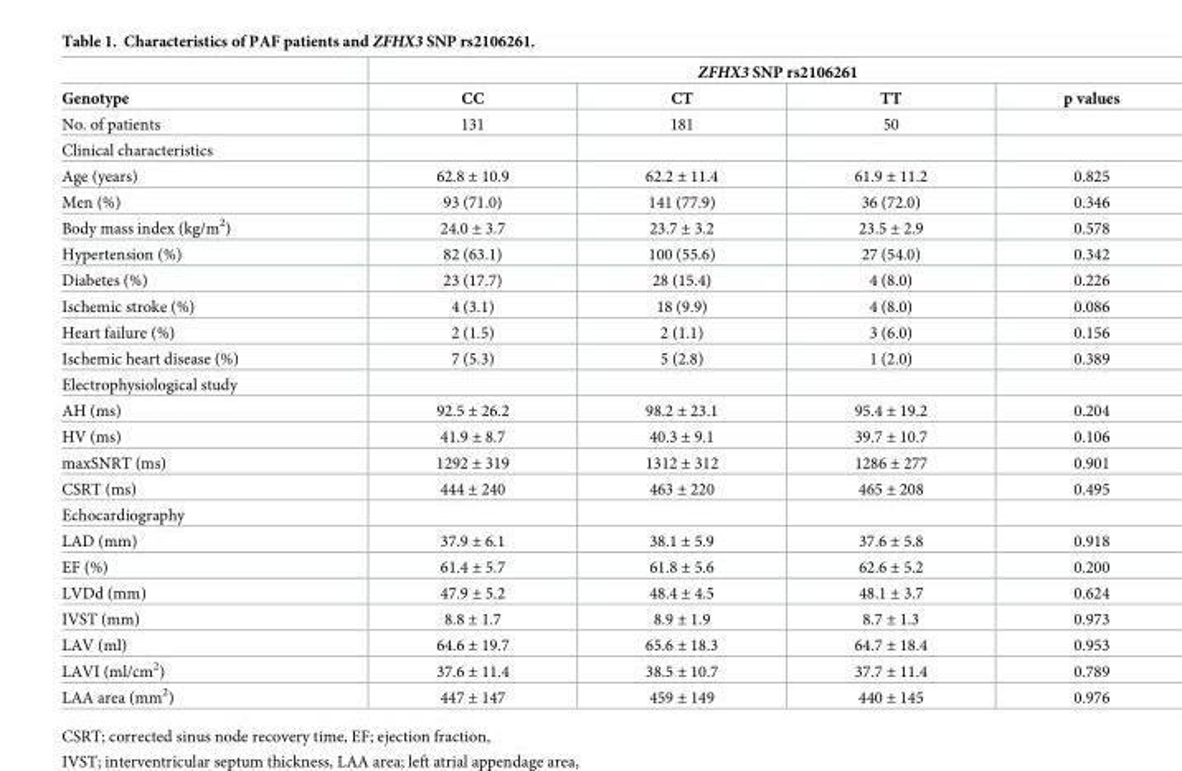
<table><thead><tr><td rowspan="2">Genotype</td><td colspan="4">ZFHX3 SNP rs2106261</td></tr><tr><td>CC</td><td>CT</td><td>TT</td><td>p values</td></tr></thead><tbody><tr><td>No. of patients</td><td>131</td><td>181</td><td>50</td><td></td></tr><tr><td colspan="5">Clinical characteristics</td></tr><tr><td>Age (years)</td><td>62.8 ± 10.9</td><td>62.2 ± 11.4</td><td>61.9 ± 11.2</td><td>0.825</td></tr><tr><td>Men (%)</td><td>93 (71.0)</td><td>141 (77.9)</td><td>36 (72.0)</td><td>0.346</td></tr><tr><td>Body mass index (kg/m<sup>2</sup>)</td><td>24.0 ± 3.7</td><td>23.7 ± 3.2</td><td>23.5 ± 2.9</td><td>0.578</td></tr><tr><td>Hypertension (%)</td><td>82 (63.1)</td><td>100 (55.6)</td><td>27 (54.0)</td><td>0.342</td></tr><tr><td>Diabetes (%)</td><td>23 (17.7)</td><td>28 (15.4)</td><td>4 (8.0)</td><td>0.226</td></tr><tr><td>Ischemic stroke (%)</td><td>4 (3.1)</td><td>18 (9.9)</td><td>4 (8.0)</td><td>0.086</td></tr><tr><td>Heart failure (%)</td><td>2 (1.5)</td><td>2 (1.1)</td><td>3 (6.0)</td><td>0.156</td></tr><tr><td>Ischemic heart disease (%)</td><td>7 (5.3)</td><td>5 (2.8)</td><td>1 (2.0)</td><td>0.389</td></tr><tr><td colspan="5">Electrophysiological study</td></tr><tr><td>AH (ms)</td><td>92.5 ± 26.2</td><td>98.2 ± 23.1</td><td>95.4 ± 19.2</td><td>0.204</td></tr><tr><td>HV (ms)</td><td>41.9 ± 8.7</td><td>40.3 ± 9.1</td><td>39.7 ± 10.7</td><td>0.106</td></tr><tr><td>maxSNRT (ms)</td><td>1292 ± 319</td><td>1312 ± 312</td><td>1286 ± 277</td><td>0.901</td></tr><tr><td>CSRT (ms)</td><td>444 ± 240</td><td>463 ± 220</td><td>465 ± 208</td><td>0.495</td></tr><tr><td colspan="5">Echocardiography</td></tr><tr><td>LAD (mm)</td><td>37.9 ± 6.1</td><td>38.1 ± 5.9</td><td>37.6 ± 5.8</td><td>0.918</td></tr><tr><td>EF (%)</td><td>61.4 ± 5.7</td><td>61.8 ± 5.6</td><td>62.6 ± 5.2</td><td>0.200</td></tr><tr><td>LVDd (mm)</td><td>47.9 ± 5.2</td><td>48.4 ± 4.5</td><td>48.1 ± 3.7</td><td>0.624</td></tr><tr><td>IVST (mm)</td><td>8.8 ± 1.7</td><td>8.9 ± 1.9</td><td>8.7 ± 1.3</td><td>0.973</td></tr><tr><td>LAV (ml)</td><td>64.6 ± 19.7</td><td>65.6 ± 18.3</td><td>64.7 ± 18.4</td><td>0.953</td></tr><tr><td>LAVI (ml/cm<sup>2</sup>)</td><td>37.6 ± 11.4</td><td>38.5 ± 10.7</td><td>37.7 ± 11.4</td><td>0.789</td></tr><tr><td>LAA area (mm<sup>2</sup>)</td><td>447 ± 147</td><td>459 ± 149</td><td>440 ± 145</td><td>0.976</td></tr></tbody></table>